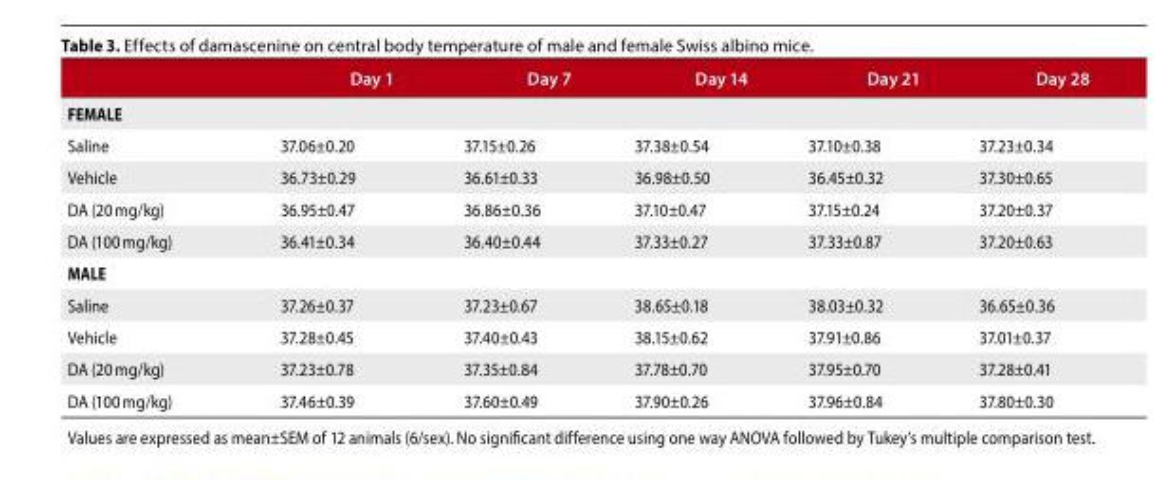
<table><thead><tr><td></td><td>Day 1</td><td>Day 7</td><td>Day 14</td><td>Day 21</td><td>Day 28</td></tr></thead><tbody><tr><td colspan="6">FEMALE</td></tr><tr><td>Saline</td><td>37.06±0.20</td><td>37.15±0.26</td><td>37.38±0.54</td><td>37.10±0.38</td><td>37.23±0.34</td></tr><tr><td>Vehicle</td><td>36.73±0.29</td><td>36.61±0.33</td><td>36.98±0.50</td><td>36.45±0.32</td><td>37.30±0.65</td></tr><tr><td>DA (20 mg/kg)</td><td>36.95±0.47</td><td>36.86±0.36</td><td>37.10±0.47</td><td>37.15±0.24</td><td>37.20±0.37</td></tr><tr><td>DA (100 mg/kg)</td><td>36.41±0.34</td><td>36.40±0.44</td><td>37.33±0.27</td><td>37.33±0.87</td><td>37.20±0.63</td></tr><tr><td colspan="6">MALE</td></tr><tr><td>Saline</td><td>37.26±0.37</td><td>37.23±0.67</td><td>38.65±0.18</td><td>38.03±0.32</td><td>36.65±0.36</td></tr><tr><td>Vehicle</td><td>37.28±0.45</td><td>37.40±0.43</td><td>38.15±0.62</td><td>37.91±0.86</td><td>37.01±0.37</td></tr><tr><td>DA (20 mg/kg)</td><td>37.23±0.78</td><td>37.35±0.84</td><td>37.78±0.70</td><td>37.95±0.70</td><td>37.28±0.41</td></tr><tr><td>DA (100 mg/kg)</td><td>37.46±0.39</td><td>37.60±0.49</td><td>37.90±0.26</td><td>37.96±0.84</td><td>37.80±0.30</td></tr></tbody></table>